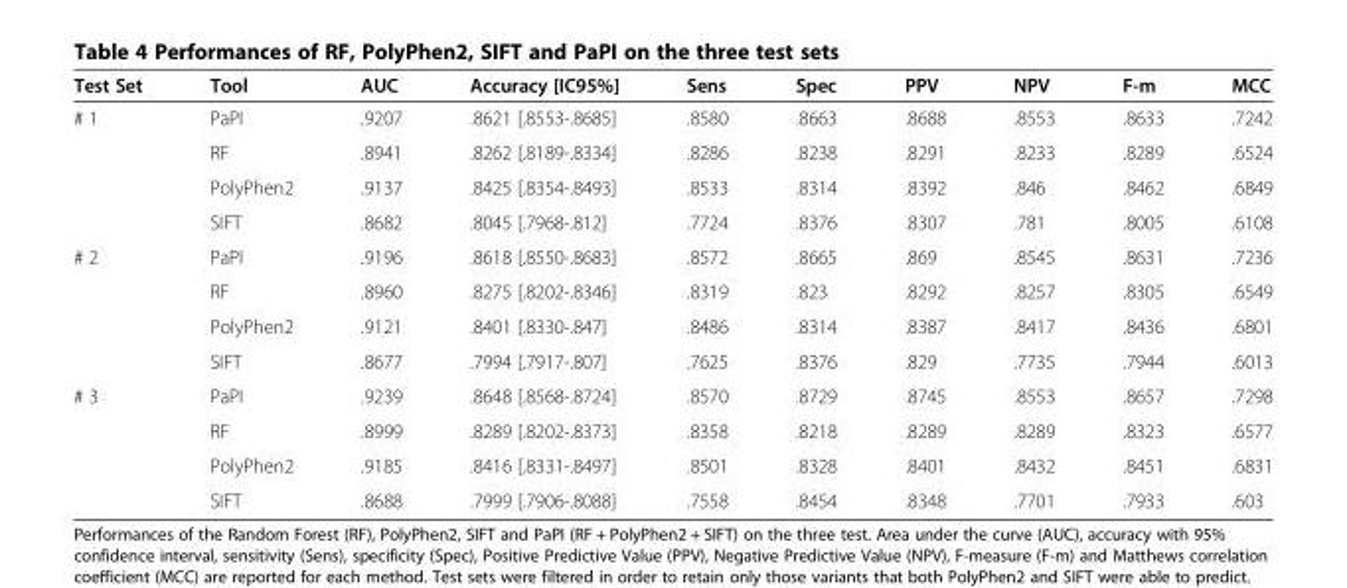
<table><thead><tr><td>Test Set</td><td>Tool</td><td>AUC</td><td>Accuracy [IC95%]</td><td>Sens</td><td>Spec</td><td>PPV</td><td>NPV</td><td>F-m</td><td>MCC</td></tr></thead><tbody><tr><td rowspan="4"># 1</td><td>PaPI</td><td>.9207</td><td>.8621 [.8553-.8685]</td><td>.8580</td><td>.8663</td><td>.8688</td><td>.8553</td><td>.8633</td><td>.7242</td></tr><tr><td>RF</td><td>.8941</td><td>.8262 [.8189-.8334]</td><td>.8286</td><td>.8238</td><td>.8291</td><td>.8233</td><td>.8289</td><td>.6524</td></tr><tr><td>PolyPhen2</td><td>.9137</td><td>.8425 [.8354-.8493]</td><td>.8533</td><td>.8314</td><td>.8392</td><td>.846</td><td>.8462</td><td>.6849</td></tr><tr><td>SIFT</td><td>.8682</td><td>.8045 [.7968-.812]</td><td>.7724</td><td>.8376</td><td>.8307</td><td>.781</td><td>.8005</td><td>.6108</td></tr><tr><td rowspan="4"># 2</td><td>PaPI</td><td>.9196</td><td>.8618 [.8550-.8683]</td><td>.8572</td><td>.8665</td><td>.869</td><td>.8545</td><td>.8631</td><td>.7236</td></tr><tr><td>RF</td><td>.8960</td><td>.8275 [.8202-.8346]</td><td>.8319</td><td>.823</td><td>.8292</td><td>.8257</td><td>.8305</td><td>.6549</td></tr><tr><td>PolyPhen2</td><td>.9121</td><td>.8401 [.8330-.847]</td><td>.8486</td><td>.8314</td><td>.8387</td><td>.8417</td><td>.8436</td><td>.6801</td></tr><tr><td>SIFT</td><td>.8677</td><td>.7994 [.7917-.807]</td><td>.7625</td><td>.8376</td><td>.829</td><td>.7735</td><td>.7944</td><td>.6013</td></tr><tr><td rowspan="4"># 3</td><td>PaPI</td><td>.9239</td><td>.8648 [.8568-.8724]</td><td>.8570</td><td>.8729</td><td>.8745</td><td>.8553</td><td>.8657</td><td>.7298</td></tr><tr><td>RF</td><td>.8999</td><td>.8289 [.8202-.8373]</td><td>.8358</td><td>.8218</td><td>.8289</td><td>.8289</td><td>.8323</td><td>.6577</td></tr><tr><td>PolyPhen2</td><td>.9185</td><td>.8416 [.8331-.8497]</td><td>.8501</td><td>.8328</td><td>.8401</td><td>.8432</td><td>.8451</td><td>.6831</td></tr><tr><td>SIFT</td><td>.8688</td><td>.7999 [.7906-.8088]</td><td>.7558</td><td>.8454</td><td>.8348</td><td>.7701</td><td>.7933</td><td>.603</td></tr></tbody></table>